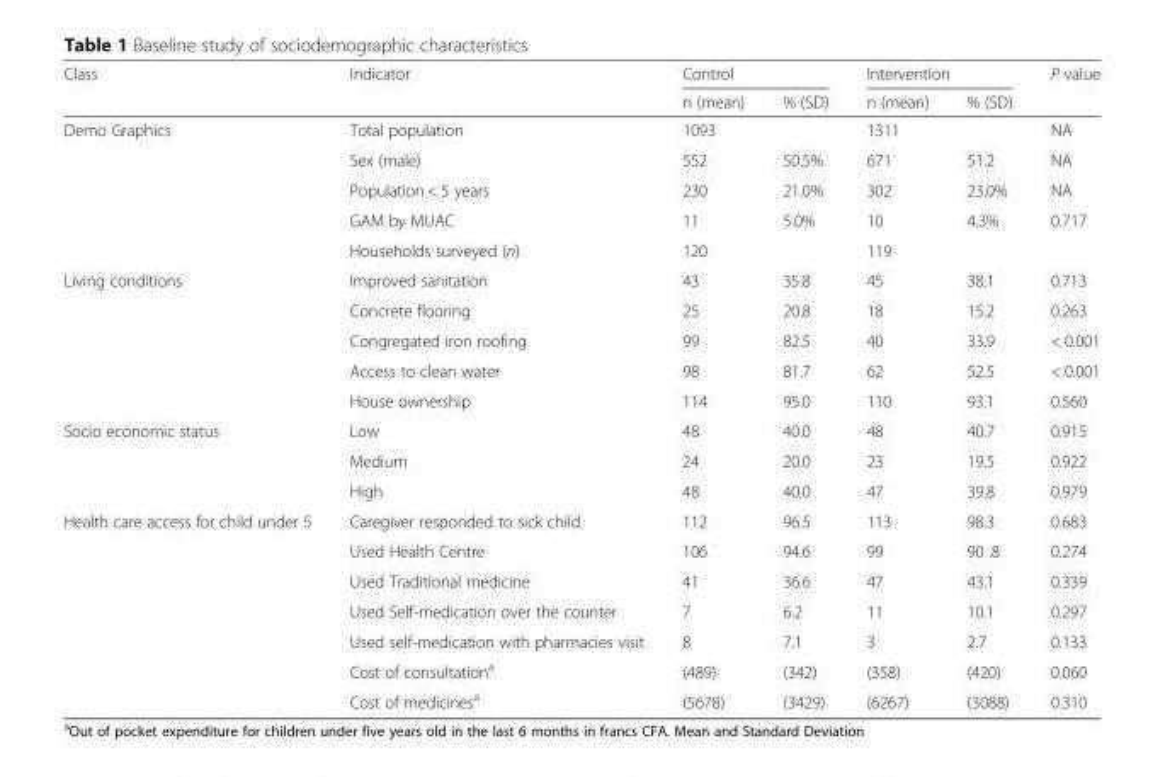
<table><thead><tr><td rowspan="2">Class</td><td rowspan="2">Indicator</td><td colspan="2">Control</td><td colspan="2">Intervention</td><td rowspan="2">P value</td></tr><tr><td>n (mean)</td><td>% (SD)</td><td>n (mean)</td><td>% (SD)</td></tr></thead><tbody><tr><td rowspan="5">Demo Graphics</td><td>Total population</td><td>1093</td><td></td><td>1311</td><td></td><td>NA</td></tr><tr><td>Sex (male)</td><td>552</td><td>50.5%</td><td>671</td><td>51.2</td><td>NA</td></tr><tr><td>Population &lt; 5 years</td><td>230</td><td>21.0%</td><td>302</td><td>23.0%</td><td>NA</td></tr><tr><td>GAM by MUAC</td><td>11</td><td>5.0%</td><td>10</td><td>4.3%</td><td>0.717</td></tr><tr><td>Households surveyed (n)</td><td>120</td><td></td><td>119</td><td></td><td></td></tr><tr><td rowspan="5">Living conditions</td><td>Improved sanitation</td><td>43</td><td>35.8</td><td>45</td><td>38.1</td><td>0.713</td></tr><tr><td>Concrete flooring</td><td>25</td><td>20.8</td><td>18</td><td>15.2</td><td>0.263</td></tr><tr><td>Congregated iron roofing</td><td>99</td><td>82.5</td><td>40</td><td>33.9</td><td>&lt; 0.001</td></tr><tr><td>Access to clean water</td><td>98</td><td>81.7</td><td>62</td><td>52.5</td><td>&lt; 0.001</td></tr><tr><td>House ownership</td><td>114</td><td>95.0</td><td>110</td><td>93.1</td><td>0.560</td></tr><tr><td rowspan="3">Socio economic status</td><td>Low</td><td>48</td><td>40.0</td><td>48</td><td>40.7</td><td>0.915</td></tr><tr><td>Medium</td><td>24</td><td>20.0</td><td>23</td><td>19.5</td><td>0.922</td></tr><tr><td>High</td><td>48</td><td>40.0</td><td>47</td><td>39.8</td><td>0.979</td></tr><tr><td rowspan="7">Health care access for child under 5</td><td>Caregiver responded to sick child</td><td>112</td><td>96.5</td><td>113</td><td>98.3</td><td>0.683</td></tr><tr><td>Used Health Centre</td><td>106</td><td>94.6</td><td>99</td><td>90 .8</td><td>0.274</td></tr><tr><td>Used Traditional medicine</td><td>41</td><td>36.6</td><td>47</td><td>43.1</td><td>0.339</td></tr><tr><td>Used Self-medication over the counter</td><td>7</td><td>6.2</td><td>11</td><td>10.1</td><td>0.297</td></tr><tr><td>Used self-medication with pharmacies visit</td><td>8</td><td>7.1</td><td>3</td><td>2.7</td><td>0.133</td></tr><tr><td>Cost of consultation<sup>a</sup></td><td>(489)</td><td>(342)</td><td>(358)</td><td>(420)</td><td>0.060</td></tr><tr><td>Cost of medicines<sup>a</sup></td><td>(5678)</td><td>(3429)</td><td>(6267)</td><td>(3088)</td><td>0.310</td></tr></tbody></table>